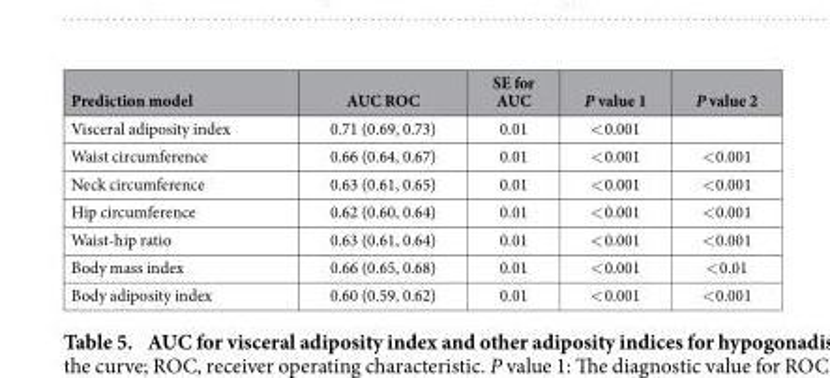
<table><thead><tr><td>Prediction model</td><td>AUC ROC</td><td>SE for AUC</td><td>P value 1</td><td>P value 2</td></tr></thead><tbody><tr><td>Visceral adiposity index</td><td>0.71 (0.69, 0.73)</td><td>0.01</td><td>&lt; 0.001</td><td></td></tr><tr><td>Waist circumference</td><td>0.66 (0.64, 0.67)</td><td>0.01</td><td>&lt; 0.001</td><td>&lt; 0.001</td></tr><tr><td>Neck circumference</td><td>0.63 (0.61, 0.65)</td><td>0.01</td><td>&lt; 0.001</td><td>&lt; 0.001</td></tr><tr><td>Hip circumference</td><td>0.62 (0.60, 0.64)</td><td>0.01</td><td>&lt; 0.001</td><td>&lt; 0.001</td></tr><tr><td>Waist-hip ratio</td><td>0.63 (0.61, 0.64)</td><td>0.01</td><td>&lt; 0.001</td><td>&lt; 0.001</td></tr><tr><td>Body mass index</td><td>0.66 (0.65, 0.68)</td><td>0.01</td><td>&lt; 0.001</td><td>&lt; 0.01</td></tr><tr><td>Body adiposity index</td><td>0.60 (0.59, 0.62)</td><td>0.01</td><td>&lt; 0.001</td><td>&lt; 0.001</td></tr></tbody></table>